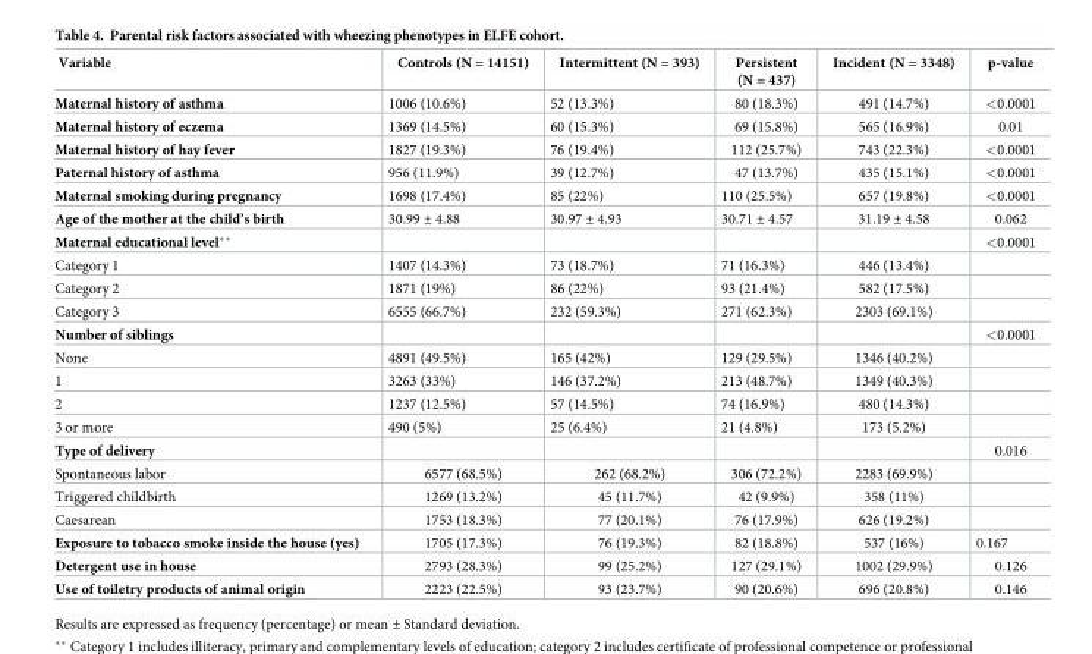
<table><thead><tr><td>Variable</td><td>Controls (N = 14151)</td><td>Intermittent (N = 393)</td><td>Persistent (N = 437)</td><td>Incident (N = 3348)</td><td>p-value</td></tr></thead><tbody><tr><td>Maternal history of asthma</td><td>1006 (10.6%)</td><td>52 (13.3%)</td><td>80 (18.3%)</td><td>491 (14.7%)</td><td>&lt;0.0001</td></tr><tr><td>Maternal history of eczema</td><td>1369 (14.5%)</td><td>60 (15.3%)</td><td>69 (15.8%)</td><td>565 (16.9%)</td><td>0.01</td></tr><tr><td>Maternal history of hay fever</td><td>1827 (19.3%)</td><td>76 (19.4%)</td><td>112 (25.7%)</td><td>743 (22.3%)</td><td>&lt;0.0001</td></tr><tr><td>Paternal history of asthma</td><td>956 (11.9%)</td><td>39 (12.7%)</td><td>47 (13.7%)</td><td>435 (15.1%)</td><td>&lt;0.0001</td></tr><tr><td>Maternal smoking during pregnancy</td><td>1698 (17.4%)</td><td>85 (22%)</td><td>110 (25.5%)</td><td>657 (19.8%)</td><td>&lt;0.0001</td></tr><tr><td>Age of the mother at the child’s birth</td><td>30.99 ± 4.88</td><td>30.97 ± 4.93</td><td>30.71 ± 4.57</td><td>31.19 ± 4.58</td><td>0.062</td></tr><tr><td>Maternal educational level**</td><td></td><td></td><td></td><td></td><td>&lt;0.0001</td></tr><tr><td>Category 1</td><td>1407 (14.3%)</td><td>73 (18.7%)</td><td>71 (16.3%)</td><td>446 (13.4%)</td><td></td></tr><tr><td>Category 2</td><td>1871 (19%)</td><td>86 (22%)</td><td>93 (21.4%)</td><td>582 (17.5%)</td><td></td></tr><tr><td>Category 3</td><td>6555 (66.7%)</td><td>232 (59.3%)</td><td>271 (62.3%)</td><td>2303 (69.1%)</td><td></td></tr><tr><td>Number of siblings</td><td></td><td></td><td></td><td></td><td>&lt;0.0001</td></tr><tr><td>None</td><td>4891 (49.5%)</td><td>165 (42%)</td><td>129 (29.5%)</td><td>1346 (40.2%)</td><td></td></tr><tr><td>1</td><td>3263 (33%)</td><td>146 (37.2%)</td><td>213 (48.7%)</td><td>1349 (40.3%)</td><td></td></tr><tr><td>2</td><td>1237 (12.5%)</td><td>57 (14.5%)</td><td>74 (16.9%)</td><td>480 (14.3%)</td><td></td></tr><tr><td>3 or more</td><td>490 (5%)</td><td>25 (6.4%)</td><td>21 (4.8%)</td><td>173 (5.2%)</td><td></td></tr><tr><td>Type of delivery</td><td></td><td></td><td></td><td></td><td>0.016</td></tr><tr><td>Spontaneous labor</td><td>6577 (68.5%)</td><td>262 (68.2%)</td><td>306 (72.2%)</td><td>2283 (69.9%)</td><td></td></tr><tr><td>Triggered childbirth</td><td>1269 (13.2%)</td><td>45 (11.7%)</td><td>42 (9.9%)</td><td>358 (11%)</td><td></td></tr><tr><td>Caesarean</td><td>1753 (18.3%)</td><td>77 (20.1%)</td><td>76 (17.9%)</td><td>626 (19.2%)</td><td></td></tr><tr><td>Exposure to tobacco smoke inside the house (yes)</td><td>1705 (17.3%)</td><td>76 (19.3%)</td><td>82 (18.8%)</td><td>537 (16%)</td><td>0.167</td></tr><tr><td>Detergent use in house</td><td>2793 (28.3%)</td><td>99 (25.2%)</td><td>127 (29.1%)</td><td>1002 (29.9%)</td><td>0.126</td></tr><tr><td>Use of toiletry products of animal origin</td><td>2223 (22.5%)</td><td>93 (23.7%)</td><td>90 (20.6%)</td><td>696 (20.8%)</td><td>0.146</td></tr></tbody></table>